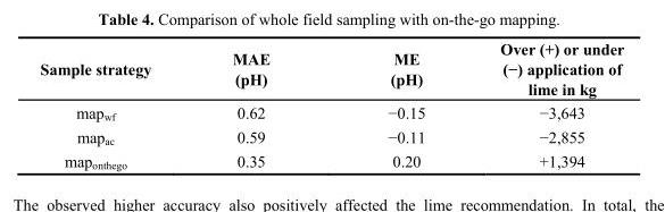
<table><thead><tr><td>Sample strategy</td><td>MAE (pH)</td><td>ME (pH)</td><td>Over (+) or under (−) application of lime in kg</td></tr></thead><tbody><tr><td>map<sub>wf</sub></td><td>0.62</td><td>−0.15</td><td>−3,643</td></tr><tr><td>map<sub>ac</sub></td><td>0.59</td><td>−0.11</td><td>−2,855</td></tr><tr><td>map<sub>onthego</sub></td><td>0.35</td><td>0.20</td><td>+1,394</td></tr></tbody></table>